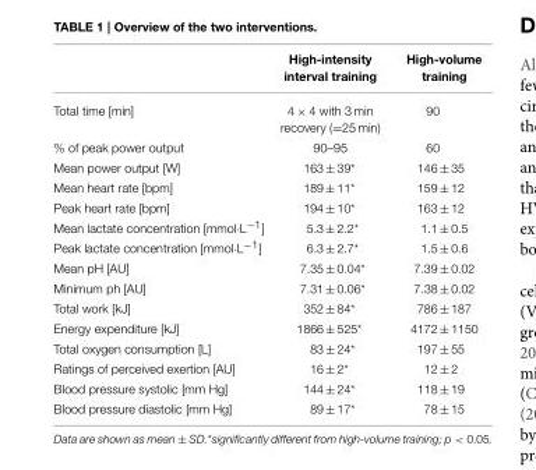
<table><thead><tr><td></td><td>High-intensity interval training</td><td>High-volume training</td></tr></thead><tbody><tr><td>Total time [min]</td><td>4 × 4 with 3 min recovery (=25 min)</td><td>90</td></tr><tr><td>% of peak power output</td><td>90–95</td><td>60</td></tr><tr><td>Mean power output [W]</td><td>163 ± 39*</td><td>146 ± 35</td></tr><tr><td>Mean heart rate [bpm]</td><td>189 ± 11*</td><td>159 ± 12</td></tr><tr><td>Peak heart rate [bpm]</td><td>194 ± 10*</td><td>163 ± 12</td></tr><tr><td>Mean lactate concentration [mmol·L<sup>−1</sup>]</td><td>5.3 ± 2.2*</td><td>1.1 ± 0.5</td></tr><tr><td>Peak lactate concentration [mmol·L<sup>−1</sup>]</td><td>6.3 ± 2.7*</td><td>1.5 ± 0.6</td></tr><tr><td>Mean pH [AU]</td><td>7.35 ± 0.04*</td><td>7.39 ± 0.02</td></tr><tr><td>Minimum ph [AU]</td><td>7.31 ± 0.06*</td><td>7.38 ± 0.02</td></tr><tr><td>Total work [kJ]</td><td>352 ± 84*</td><td>786 ± 187</td></tr><tr><td>Energy expenditure [kJ]</td><td>1866 ± 525*</td><td>4172 ± 1150</td></tr><tr><td>Total oxygen consumption [L]</td><td>83 ± 24*</td><td>197 ± 55</td></tr><tr><td>Ratings of perceived exertion [AU]</td><td>16 ± 2*</td><td>12 ± 2</td></tr><tr><td>Blood pressure systolic [mm Hg]</td><td>144 ± 24*</td><td>118 ± 19</td></tr><tr><td>Blood pressure diastolic [mm Hg]</td><td>89 ± 17*</td><td>78 ± 15</td></tr></tbody></table>